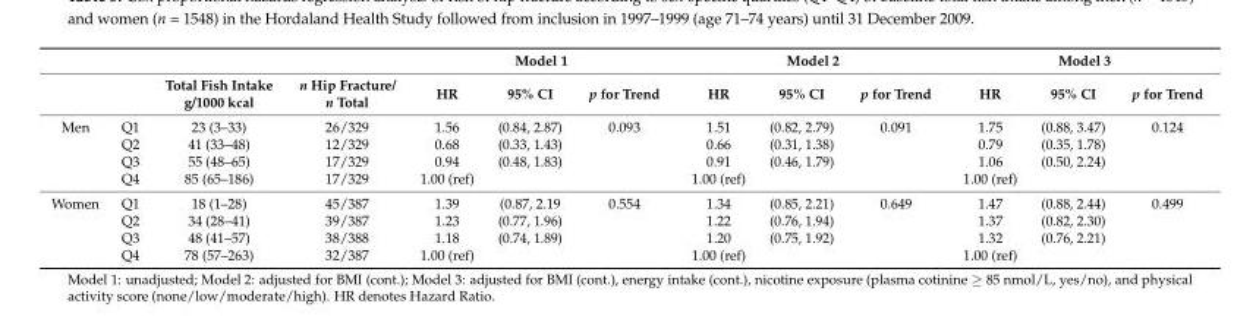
<table><thead><tr><td rowspan="2"></td><td rowspan="2"></td><td rowspan="2">Total Fish Intake g/1000 kcal</td><td rowspan="2">n Hip Fracture/ n Total</td><td colspan="3">Model 1</td><td colspan="3">Model 2</td><td colspan="3">Model 3</td></tr><tr><td>HR</td><td>95% CI</td><td>p for Trend</td><td>HR</td><td>95% CI</td><td>p for Trend</td><td>HR</td><td>95% CI</td><td>p for Trend</td></tr></thead><tbody><tr><td rowspan="4">Men</td><td>Q1</td><td>23 (3–33)</td><td>26/329</td><td>1.56</td><td>(0.84, 2.87)</td><td>0.093</td><td>1.51</td><td>(0.82, 2.79)</td><td>0.091</td><td>1.75</td><td>(0.88, 3.47)</td><td>0.124</td></tr><tr><td>Q2</td><td>41 (33–48)</td><td>12/329</td><td>0.68</td><td>(0.33, 1.43)</td><td></td><td>0.66</td><td>(0.31, 1.38)</td><td></td><td>0.79</td><td>(0.35, 1.78)</td><td></td></tr><tr><td>Q3</td><td>55 (48–65)</td><td>17/329</td><td>0.94</td><td>(0.48, 1.83)</td><td></td><td>0.91</td><td>(0.46, 1.79)</td><td></td><td>1.06</td><td>(0.50, 2.24)</td><td></td></tr><tr><td>Q4</td><td>85 (65–186)</td><td>17/329</td><td>1.00 (ref)</td><td></td><td></td><td>1.00 (ref)</td><td></td><td></td><td>1.00 (ref)</td><td></td><td></td></tr><tr><td rowspan="4">Women</td><td>Q1</td><td>18 (1–28)</td><td>45/387</td><td>1.39</td><td>(0.87, 2.19</td><td>0.554</td><td>1.34</td><td>(0.85, 2.21)</td><td>0.649</td><td>1.47</td><td>(0.88, 2.44)</td><td>0.499</td></tr><tr><td>Q2</td><td>34 (28–41)</td><td>39/387</td><td>1.23</td><td>(0.77, 1.96)</td><td></td><td>1.22</td><td>(0.76, 1.94)</td><td></td><td>1.37</td><td>(0.82, 2.30)</td><td></td></tr><tr><td>Q3</td><td>48 (41–57)</td><td>38/388</td><td>1.18</td><td>(0.74, 1.89)</td><td></td><td>1.20</td><td>(0.75, 1.92)</td><td></td><td>1.32</td><td>(0.76, 2.21)</td><td></td></tr><tr><td>Q4</td><td>78 (57–263)</td><td>32/387</td><td>1.00 (ref)</td><td></td><td></td><td>1.00 (ref)</td><td></td><td></td><td>1.00 (ref)</td><td></td><td></td></tr></tbody></table>